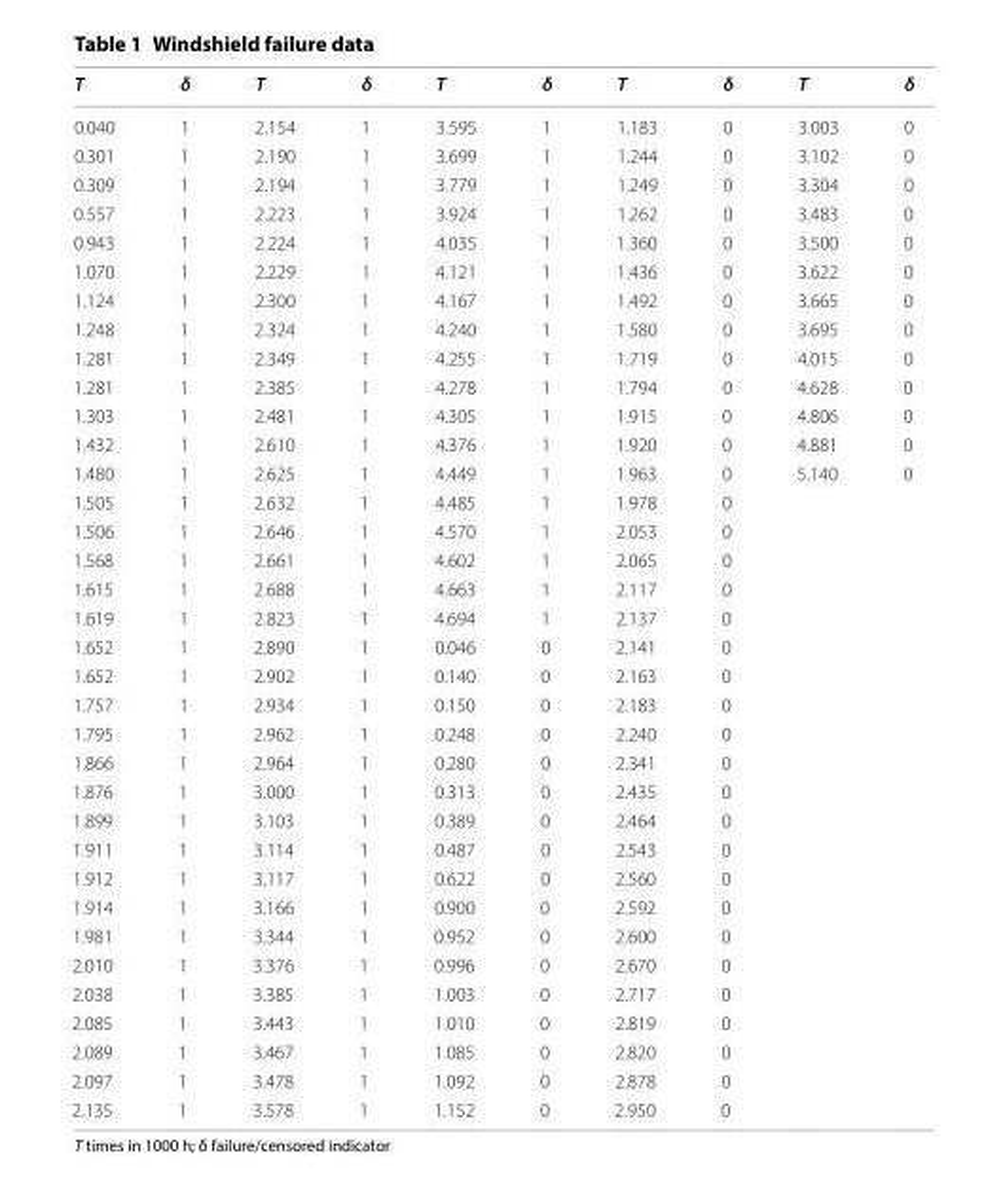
<table><thead><tr><td>T</td><td>δ</td><td>T</td><td>δ</td><td>T</td><td>δ</td><td>T</td><td>δ</td><td>T</td><td>δ</td></tr></thead><tbody><tr><td>0.040</td><td>1</td><td>2.154</td><td>1</td><td>3.595</td><td>1</td><td>1.183</td><td>0</td><td>3.003</td><td>0</td></tr><tr><td>0.301</td><td>1</td><td>2.190</td><td>1</td><td>3.699</td><td>1</td><td>1.244</td><td>0</td><td>3.102</td><td>0</td></tr><tr><td>0.309</td><td>1</td><td>2.194</td><td>1</td><td>3.779</td><td>1</td><td>1.249</td><td>0</td><td>3.304</td><td>0</td></tr><tr><td>0.557</td><td>1</td><td>2.223</td><td>1</td><td>3.924</td><td>1</td><td>1.262</td><td>0</td><td>3.483</td><td>0</td></tr><tr><td>0.943</td><td>1</td><td>2.224</td><td>1</td><td>4.035</td><td>1</td><td>1.360</td><td>0</td><td>3.500</td><td>0</td></tr><tr><td>1.070</td><td>1</td><td>2.229</td><td>1</td><td>4.121</td><td>1</td><td>1.436</td><td>0</td><td>3.622</td><td>0</td></tr><tr><td>1.124</td><td>1</td><td>2.300</td><td>1</td><td>4.167</td><td>1</td><td>1.492</td><td>0</td><td>3.665</td><td>0</td></tr><tr><td>1.248</td><td>1</td><td>2.324</td><td>1</td><td>4.240</td><td>1</td><td>1.580</td><td>0</td><td>3.695</td><td>0</td></tr><tr><td>1.281</td><td>1</td><td>2.349</td><td>1</td><td>4.255</td><td>1</td><td>1.719</td><td>0</td><td>4.015</td><td>0</td></tr><tr><td>1.281</td><td>1</td><td>2.385</td><td>1</td><td>4.278</td><td>1</td><td>1.794</td><td>0</td><td>4.628</td><td>0</td></tr><tr><td>1.303</td><td>1</td><td>2.481</td><td>1</td><td>4.305</td><td>1</td><td>1.915</td><td>0</td><td>4.806</td><td>0</td></tr><tr><td>1.432</td><td>1</td><td>2.610</td><td>1</td><td>4.376</td><td>1</td><td>1.920</td><td>0</td><td>4.881</td><td>0</td></tr><tr><td>1.480</td><td>1</td><td>2.625</td><td>1</td><td>4.449</td><td>1</td><td>1.963</td><td>0</td><td>5.140</td><td>0</td></tr><tr><td>1.505</td><td>1</td><td>2.632</td><td>1</td><td>4.485</td><td>1</td><td>1.978</td><td>0</td><td></td><td></td></tr><tr><td>1.506</td><td>1</td><td>2.646</td><td>1</td><td>4.570</td><td>1</td><td>2.053</td><td>0</td><td></td><td></td></tr><tr><td>1.568</td><td>1</td><td>2.661</td><td>1</td><td>4.602</td><td>1</td><td>2.065</td><td>0</td><td></td><td></td></tr><tr><td>1.615</td><td>1</td><td>2.688</td><td>1</td><td>4.663</td><td>1</td><td>2.117</td><td>0</td><td></td><td></td></tr><tr><td>1.619</td><td>1</td><td>2.823</td><td>1</td><td>4.694</td><td>1</td><td>2.137</td><td>0</td><td></td><td></td></tr><tr><td>1.652</td><td>1</td><td>2.890</td><td>1</td><td>0.046</td><td>0</td><td>2.141</td><td>0</td><td></td><td></td></tr><tr><td>1.652</td><td>1</td><td>2.902</td><td>1</td><td>0.140</td><td>0</td><td>2.163</td><td>0</td><td></td><td></td></tr><tr><td>1.757</td><td>1</td><td>2.934</td><td>1</td><td>0.150</td><td>0</td><td>2.183</td><td>0</td><td></td><td></td></tr><tr><td>1.795</td><td>1</td><td>2.962</td><td>1</td><td>0.248</td><td>0</td><td>2.240</td><td>0</td><td></td><td></td></tr><tr><td>1.866</td><td>1</td><td>2.964</td><td>1</td><td>0.280</td><td>0</td><td>2.341</td><td>0</td><td></td><td></td></tr><tr><td>1.876</td><td>1</td><td>3.000</td><td>1</td><td>0.313</td><td>0</td><td>2.435</td><td>0</td><td></td><td></td></tr><tr><td>1.899</td><td>1</td><td>3.103</td><td>1</td><td>0.389</td><td>0</td><td>2.464</td><td>0</td><td></td><td></td></tr><tr><td>1.911</td><td>1</td><td>3.114</td><td>1</td><td>0.487</td><td>0</td><td>2.543</td><td>0</td><td></td><td></td></tr><tr><td>1.912</td><td>1</td><td>3.117</td><td>1</td><td>0.622</td><td>0</td><td>2.560</td><td>0</td><td></td><td></td></tr><tr><td>1.914</td><td>1</td><td>3.166</td><td>1</td><td>0.900</td><td>0</td><td>2.592</td><td>0</td><td></td><td></td></tr><tr><td>1.981</td><td>1</td><td>3.344</td><td>1</td><td>0.952</td><td>0</td><td>2.600</td><td>0</td><td></td><td></td></tr><tr><td>2.010</td><td>1</td><td>3.376</td><td>1</td><td>0.996</td><td>0</td><td>2.670</td><td>0</td><td></td><td></td></tr><tr><td>2.038</td><td>1</td><td>3.385</td><td>1</td><td>1.003</td><td>0</td><td>2.717</td><td>0</td><td></td><td></td></tr><tr><td>2.085</td><td>1</td><td>3.443</td><td>1</td><td>1.010</td><td>0</td><td>2.819</td><td>0</td><td></td><td></td></tr><tr><td>2.089</td><td>1</td><td>3.467</td><td>1</td><td>1.085</td><td>0</td><td>2.820</td><td>0</td><td></td><td></td></tr><tr><td>2.097</td><td>1</td><td>3.478</td><td>1</td><td>1.092</td><td>0</td><td>2.878</td><td>0</td><td></td><td></td></tr><tr><td>2.135</td><td>1</td><td>3.578</td><td>1</td><td>1.152</td><td>0</td><td>2.950</td><td>0</td><td></td><td></td></tr></tbody></table>